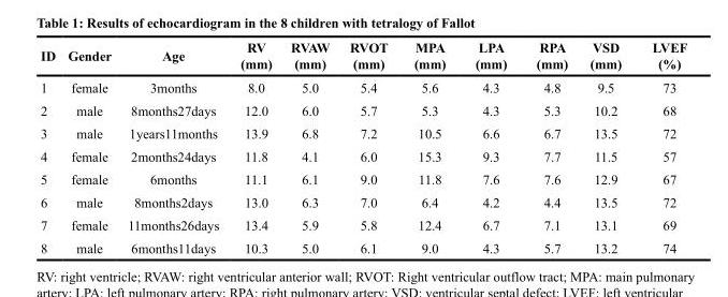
<table><thead><tr><td>ID</td><td>Gender</td><td>Age</td><td>RV (mm)</td><td>RVAW (mm)</td><td>RVOT (mm)</td><td>MPA (mm)</td><td>LPA (mm)</td><td>RPA (mm)</td><td>VSD (mm)</td><td>LVEF (%)</td></tr></thead><tbody><tr><td>1</td><td>female</td><td>3months</td><td>8.0</td><td>5.0</td><td>5.4</td><td>5.6</td><td>4.3</td><td>4.8</td><td>9.5</td><td>73</td></tr><tr><td>2</td><td>male</td><td>8months27days</td><td>12.0</td><td>6.0</td><td>5.7</td><td>5.3</td><td>4.3</td><td>5.3</td><td>10.2</td><td>68</td></tr><tr><td>3</td><td>male</td><td>1years11months</td><td>13.9</td><td>6.8</td><td>7.2</td><td>10.5</td><td>6.6</td><td>6.7</td><td>13.5</td><td>72</td></tr><tr><td>4</td><td>female</td><td>2months24days</td><td>11.8</td><td>4.1</td><td>6.0</td><td>15.3</td><td>9.3</td><td>7.7</td><td>11.5</td><td>57</td></tr><tr><td>5</td><td>female</td><td>6months</td><td>11.1</td><td>6.1</td><td>9.0</td><td>11.8</td><td>7.6</td><td>7.6</td><td>12.9</td><td>67</td></tr><tr><td>6</td><td>male</td><td>8months2days</td><td>13.0</td><td>6.3</td><td>7.0</td><td>6.4</td><td>4.2</td><td>4.4</td><td>13.5</td><td>72</td></tr><tr><td>7</td><td>female</td><td>11months26days</td><td>13.4</td><td>5.9</td><td>5.8</td><td>12.4</td><td>6.7</td><td>7.1</td><td>13.1</td><td>69</td></tr><tr><td>8</td><td>male</td><td>6months11days</td><td>10.3</td><td>5.0</td><td>6.1</td><td>9.0</td><td>4.3</td><td>5.7</td><td>13.2</td><td>74</td></tr></tbody></table>